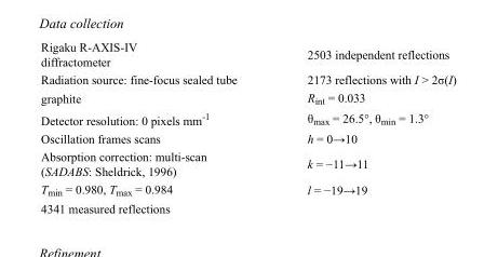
<table><tbody><tr><td>Rigaku R-AXIS-IV diffractometer</td><td>2503 independent reflections</td></tr><tr><td>Radiation source: fine-focus sealed tube</td><td>2173 reflections with I &gt; 2σ(I)</td></tr><tr><td>graphite</td><td>R<sub>int</sub> = 0.033</td></tr><tr><td>Detector resolution: 0 pixels mm<sup>-1</sup></td><td>θ<sub>max</sub> = 26.5°, θ<sub>min</sub> = 1.3°</td></tr><tr><td>Oscillation frames scans</td><td>h = 0→10</td></tr><tr><td>Absorption correction: multi-scan (SADABS: Sheldrick, 1996)</td><td>k = −11→11</td></tr><tr><td>T<sub>min</sub> = 0.980, T<sub>max</sub> = 0.984</td><td>l = −19→19</td></tr><tr><td>4341 measured reflections</td><td></td></tr></tbody></table>